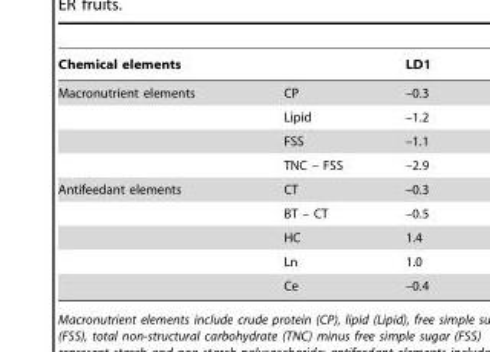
<table><thead><tr><td colspan="2">Chemical elements</td><td rowspan="2">LD1 –0.3</td></tr><tr><td>Macronutrient elements</td><td>CP</td></tr></thead><tbody><tr><td></td><td>Lipid</td><td>–1.2</td></tr><tr><td></td><td>FSS</td><td>–1.1</td></tr><tr><td></td><td>TNC – FSS</td><td>–2.9</td></tr><tr><td rowspan="5">Antifeedant elements</td><td>CT</td><td>–0.3</td></tr><tr><td>BT – CT</td><td>–0.5</td></tr><tr><td>HC</td><td>1.4</td></tr><tr><td>Ln</td><td>1.0</td></tr><tr><td>Ce</td><td>–0.4</td></tr></tbody></table>